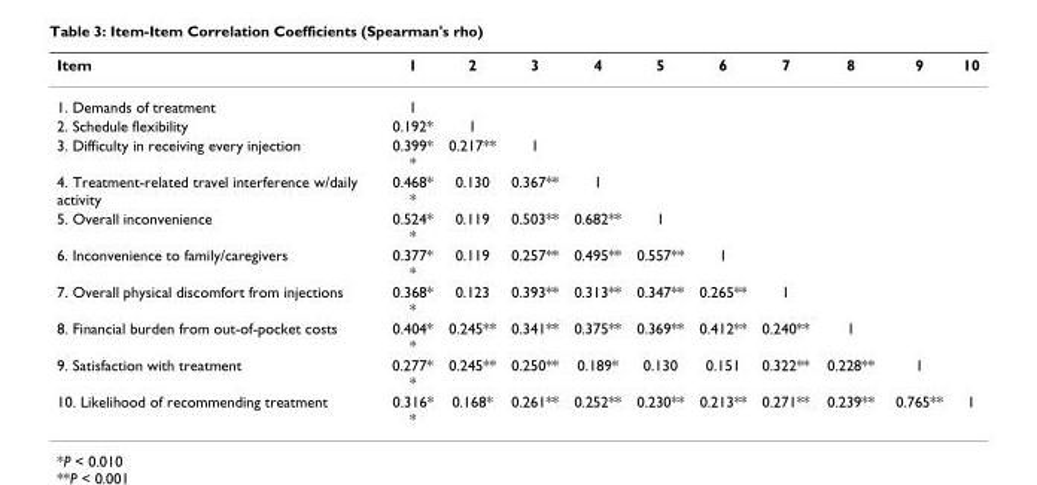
<table><thead><tr><td>Item</td><td>1</td><td>2</td><td>3</td><td>4</td><td>5</td><td>6</td><td>7</td><td>8</td><td>9</td><td>10</td></tr></thead><tbody><tr><td>1. Demands of treatment</td><td>1</td><td></td><td></td><td></td><td></td><td></td><td></td><td></td><td></td><td></td></tr><tr><td>2. Schedule flexibility</td><td>0.192*</td><td>1</td><td></td><td></td><td></td><td></td><td></td><td></td><td></td><td></td></tr><tr><td>3. Difficulty in receiving every injection</td><td>0.399* *</td><td>0.217**</td><td>1</td><td></td><td></td><td></td><td></td><td></td><td></td><td></td></tr><tr><td>4. Treatment-related travel interference w/daily activity</td><td>0.468* *</td><td>0.130</td><td>0.367**</td><td>1</td><td></td><td></td><td></td><td></td><td></td><td></td></tr><tr><td>5. Overall inconvenience</td><td>0.524* *</td><td>0.119</td><td>0.503**</td><td>0.682**</td><td>1</td><td></td><td></td><td></td><td></td><td></td></tr><tr><td>6. Inconvenience to family/caregivers</td><td>0.377* *</td><td>0.119</td><td>0.257**</td><td>0.495**</td><td>0.557**</td><td>1</td><td></td><td></td><td></td><td></td></tr><tr><td>7. Overall physical discomfort from injections</td><td>0.368* *</td><td>0.123</td><td>0.393**</td><td>0.313**</td><td>0.347**</td><td>0.265**</td><td>1</td><td></td><td></td><td></td></tr><tr><td>8. Financial burden from out-of-pocket costs</td><td>0.404* *</td><td>0.245**</td><td>0.341**</td><td>0.375**</td><td>0.369**</td><td>0.412**</td><td>0.240**</td><td>1</td><td></td><td></td></tr><tr><td>9. Satisfaction with treatment</td><td>0.277* *</td><td>0.245**</td><td>0.250**</td><td>0.189*</td><td>0.130</td><td>0.151</td><td>0.322**</td><td>0.228**</td><td>1</td><td></td></tr><tr><td>10. Likelihood of recommending treatment</td><td>0.316* *</td><td>0.168*</td><td>0.261**</td><td>0.252**</td><td>0.230**</td><td>0.213**</td><td>0.271**</td><td>0.239**</td><td>0.765**</td><td>1</td></tr></tbody></table>